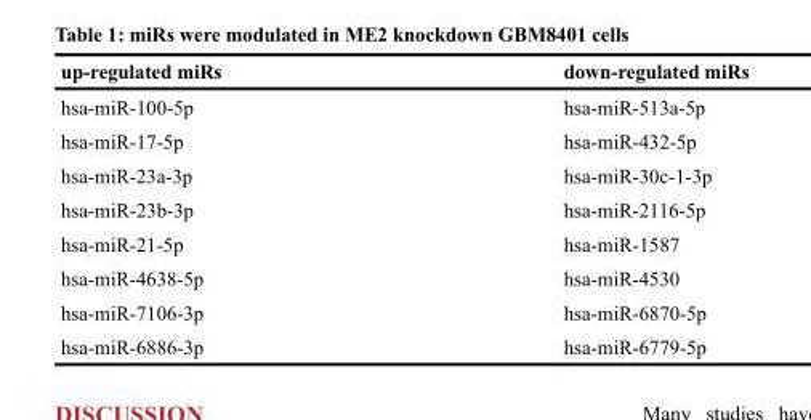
<table><thead><tr><td>up-regulated miRs</td><td>down-regulated miRs</td></tr></thead><tbody><tr><td>hsa-miR-100-5p</td><td>hsa-miR-513a-5p</td></tr><tr><td>hsa-miR-17-5p</td><td>hsa-miR-432-5p</td></tr><tr><td>hsa-miR-23a-3p</td><td>hsa-miR-30c-1-3p</td></tr><tr><td>hsa-miR-23b-3p</td><td>hsa-miR-2116-5p</td></tr><tr><td>hsa-miR-21-5p</td><td>hsa-miR-1587</td></tr><tr><td>hsa-miR-4638-5p</td><td>hsa-miR-4530</td></tr><tr><td>hsa-miR-7106-3p</td><td>hsa-miR-6870-5p</td></tr><tr><td>hsa-miR-6886-3p</td><td>hsa-miR-6779-5p</td></tr></tbody></table>